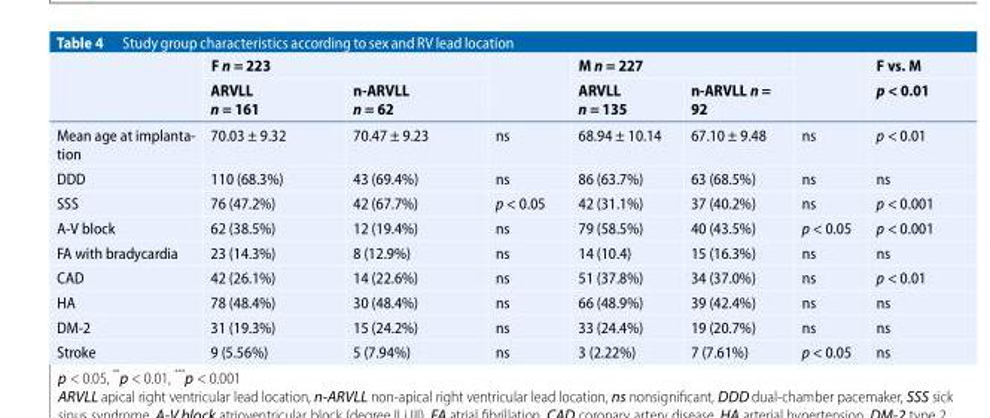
<table><thead><tr><td rowspan="2"></td><td colspan="2">F n = 223</td><td rowspan="2"></td><td colspan="2">M n = 227</td><td rowspan="2"></td><td rowspan="2">F vs. M p &lt; 0.01</td></tr><tr><td>ARVLL n = 161</td><td>n-ARVLL n = 62</td><td>ARVLL n = 135</td><td>n-ARVLL n = 92</td></tr></thead><tbody><tr><td>Mean age at implanta- tion</td><td>70.03 ± 9.32</td><td>70.47 ± 9.23</td><td>ns</td><td>68.94 ± 10.14</td><td>67.10 ± 9.48</td><td>ns</td><td>p &lt; 0.01</td></tr><tr><td>DDD</td><td>110 (68.3%)</td><td>43 (69.4%)</td><td>ns</td><td>86 (63.7%)</td><td>63 (68.5%)</td><td>ns</td><td>ns</td></tr><tr><td>SSS</td><td>76 (47.2%)</td><td>42 (67.7%)</td><td>p &lt; 0.05</td><td>42 (31.1%)</td><td>37 (40.2%)</td><td>ns</td><td>p &lt; 0.001</td></tr><tr><td>A-V block</td><td>62 (38.5%)</td><td>12 (19.4%)</td><td>ns</td><td>79 (58.5%)</td><td>40 (43.5%)</td><td>p &lt; 0.05</td><td>p &lt; 0.001</td></tr><tr><td>FA with bradycardia</td><td>23 (14.3%)</td><td>8 (12.9%)</td><td>ns</td><td>14 (10.4)</td><td>15 (16.3%)</td><td>ns</td><td>ns</td></tr><tr><td>CAD</td><td>42 (26.1%)</td><td>14 (22.6%)</td><td>ns</td><td>51 (37.8%)</td><td>34 (37.0%)</td><td>ns</td><td>p &lt; 0.01</td></tr><tr><td>HA</td><td>78 (48.4%)</td><td>30 (48.4%)</td><td>ns</td><td>66 (48.9%)</td><td>39 (42.4%)</td><td>ns</td><td>ns</td></tr><tr><td>DM-2</td><td>31 (19.3%)</td><td>15 (24.2%)</td><td>ns</td><td>33 (24.4%)</td><td>19 (20.7%)</td><td>ns</td><td>ns</td></tr><tr><td>Stroke</td><td>9 (5.56%)</td><td>5 (7.94%)</td><td>ns</td><td>3 (2.22%)</td><td>7 (7.61%)</td><td>p &lt; 0.05</td><td>ns</td></tr></tbody></table>